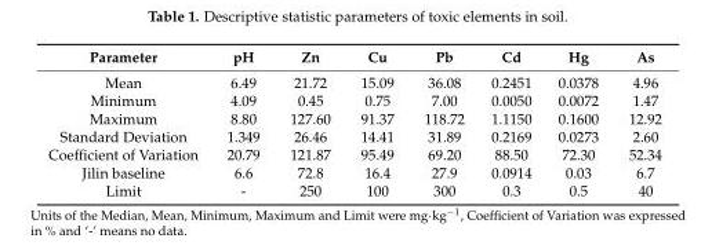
<table><thead><tr><td>Parameter</td><td>pH</td><td>Zn</td><td>Cu</td><td>Pb</td><td>Cd</td><td>Hg</td><td>As</td></tr></thead><tbody><tr><td>Mean</td><td>6.49</td><td>21.72</td><td>15.09</td><td>36.08</td><td>0.2451</td><td>0.0378</td><td>4.96</td></tr><tr><td>Minimum</td><td>4.09</td><td>0.45</td><td>0.75</td><td>7.00</td><td>0.0050</td><td>0.0072</td><td>1.47</td></tr><tr><td>Maximum</td><td>8.80</td><td>127.60</td><td>91.37</td><td>118.72</td><td>1.1150</td><td>0.1600</td><td>12.92</td></tr><tr><td>Standard Deviation</td><td>1.349</td><td>26.46</td><td>14.41</td><td>31.89</td><td>0.2169</td><td>0.0273</td><td>2.60</td></tr><tr><td>Coefficient of Variation</td><td>20.79</td><td>121.87</td><td>95.49</td><td>69.20</td><td>88.50</td><td>72.30</td><td>52.34</td></tr><tr><td>Jilin baseline</td><td>6.6</td><td>72.8</td><td>16.4</td><td>27.9</td><td>0.0914</td><td>0.03</td><td>6.7</td></tr><tr><td>Limit</td><td>-</td><td>250</td><td>100</td><td>300</td><td>0.3</td><td>0.5</td><td>40</td></tr></tbody></table>